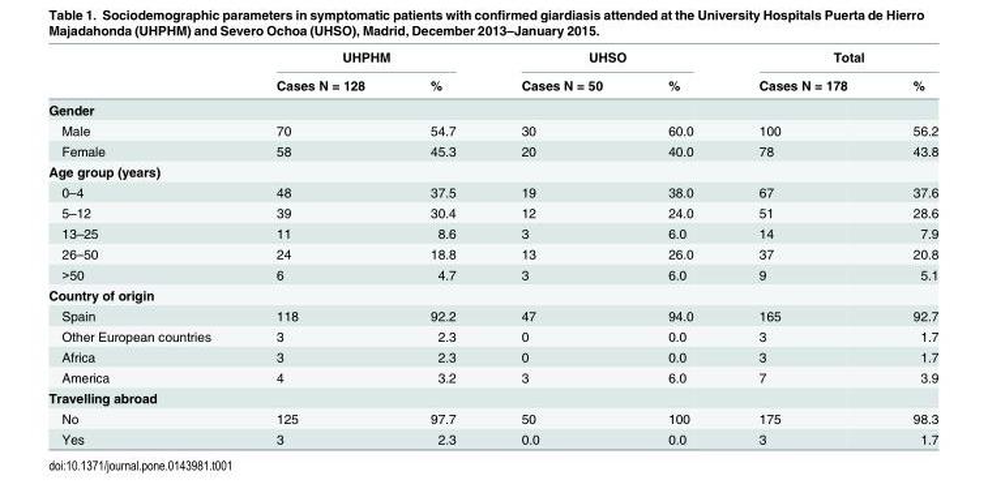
<table><thead><tr><td rowspan="2"></td><td colspan="2">UHPHM</td><td colspan="2">UHSO</td><td colspan="2">Total</td></tr><tr><td>Cases N = 128</td><td>%</td><td>Cases N = 50</td><td>%</td><td>Cases N = 178</td><td>%</td></tr></thead><tbody><tr><td colspan="7">Gender</td></tr><tr><td>Male</td><td>70</td><td>54.7</td><td>30</td><td>60.0</td><td>100</td><td>56.2</td></tr><tr><td>Female</td><td>58</td><td>45.3</td><td>20</td><td>40.0</td><td>78</td><td>43.8</td></tr><tr><td colspan="7">Age group (years)</td></tr><tr><td>0–4</td><td>48</td><td>37.5</td><td>19</td><td>38.0</td><td>67</td><td>37.6</td></tr><tr><td>5–12</td><td>39</td><td>30.4</td><td>12</td><td>24.0</td><td>51</td><td>28.6</td></tr><tr><td>13–25</td><td>11</td><td>8.6</td><td>3</td><td>6.0</td><td>14</td><td>7.9</td></tr><tr><td>26–50</td><td>24</td><td>18.8</td><td>13</td><td>26.0</td><td>37</td><td>20.8</td></tr><tr><td>&gt;50</td><td>6</td><td>4.7</td><td>3</td><td>6.0</td><td>9</td><td>5.1</td></tr><tr><td colspan="7">Country of origin</td></tr><tr><td>Spain</td><td>118</td><td>92.2</td><td>47</td><td>94.0</td><td>165</td><td>92.7</td></tr><tr><td>Other European countries</td><td>3</td><td>2.3</td><td>0</td><td>0.0</td><td>3</td><td>1.7</td></tr><tr><td>Africa</td><td>3</td><td>2.3</td><td>0</td><td>0.0</td><td>3</td><td>1.7</td></tr><tr><td>America</td><td>4</td><td>3.2</td><td>3</td><td>6.0</td><td>7</td><td>3.9</td></tr><tr><td colspan="7">Travelling abroad</td></tr><tr><td>No</td><td>125</td><td>97.7</td><td>50</td><td>100</td><td>175</td><td>98.3</td></tr><tr><td>Yes</td><td>3</td><td>2.3</td><td>0.0</td><td>0.0</td><td>3</td><td>1.7</td></tr></tbody></table>